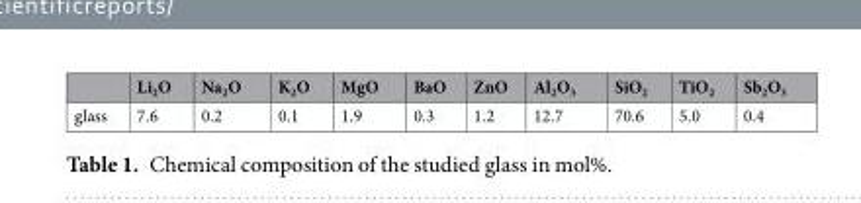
<table><thead><tr><td></td><td>Li<sub>2</sub>O</td><td>Na<sub>2</sub>O</td><td>K<sub>2</sub>O</td><td>MgO</td><td>BaO</td><td>ZnO</td><td>Al<sub>2</sub>O<sub>3</sub></td><td>SiO<sub>2</sub></td><td>TiO<sub>2</sub></td><td>Sb<sub>2</sub>O<sub>3</sub></td></tr></thead><tbody><tr><td>glass</td><td>7.6</td><td>0.2</td><td>0.1</td><td>1.9</td><td>0.3</td><td>1.2</td><td>12.7</td><td>70.6</td><td>5.0</td><td>0.4</td></tr></tbody></table>